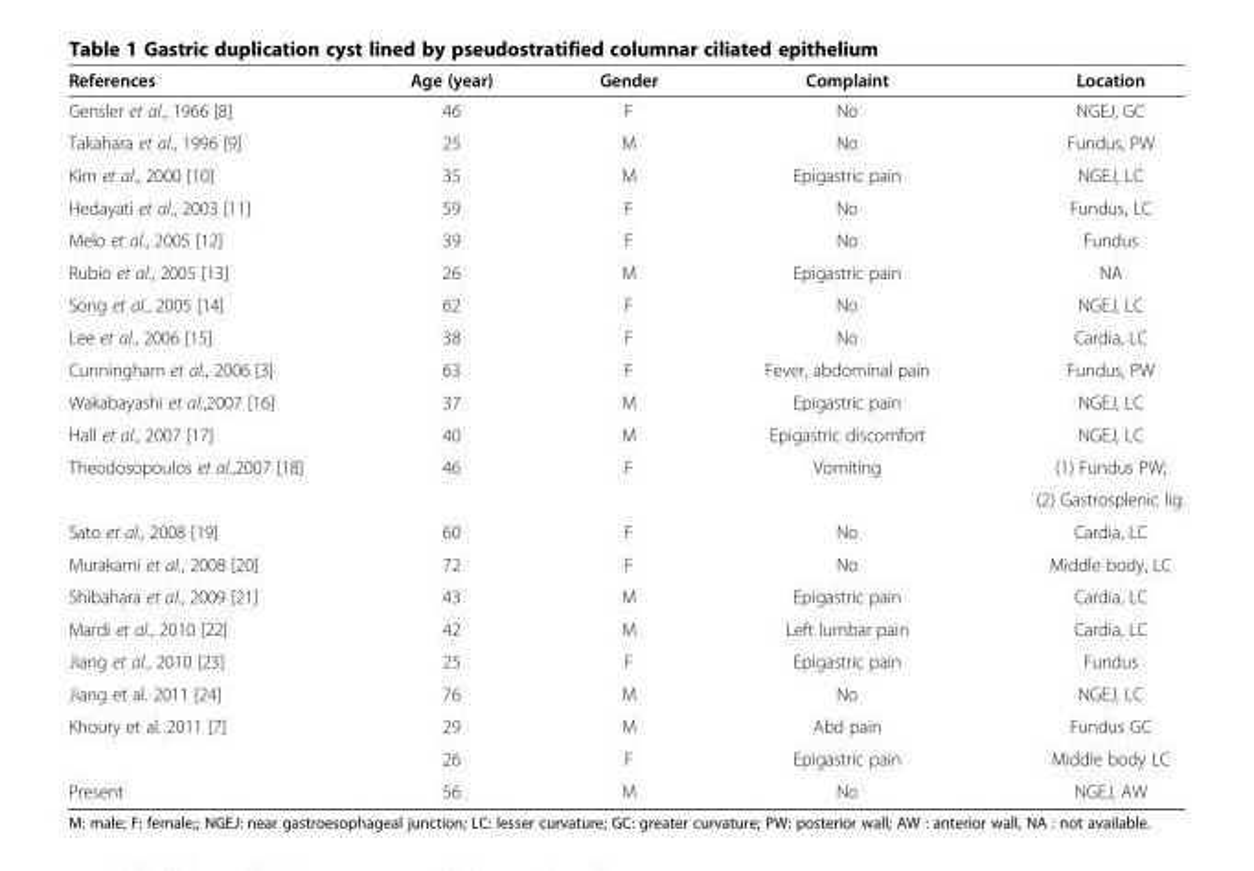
<table><thead><tr><td>References</td><td>Age (year)</td><td>Gender</td><td>Complaint</td><td>Location</td></tr></thead><tbody><tr><td>Gensler et al., 1966 [8]</td><td>46</td><td>F</td><td>No</td><td>NGEJ, GC</td></tr><tr><td>Takahara et al., 1996 [9]</td><td>25</td><td>M</td><td>No</td><td>Fundus, PW</td></tr><tr><td>Kim et al., 2000 [10]</td><td>35</td><td>M</td><td>Epigastric pain</td><td>NGEJ, LC</td></tr><tr><td>Hedayati et al., 2003 [11]</td><td>59</td><td>F</td><td>No</td><td>Fundus, LC</td></tr><tr><td>Melo et al., 2005 [12]</td><td>39</td><td>F</td><td>No</td><td>Fundus</td></tr><tr><td>Rubio et al., 2005 [13]</td><td>26</td><td>M</td><td>Epigastric pain</td><td>NA</td></tr><tr><td>Song et al., 2005 [14]</td><td>62</td><td>F</td><td>No</td><td>NGEJ, LC</td></tr><tr><td>Lee et al., 2006 [15]</td><td>38</td><td>F</td><td>No</td><td>Cardia, LC</td></tr><tr><td>Cunningham et al., 2006 [3]</td><td>63</td><td>F</td><td>Fever, abdominal pain</td><td>Fundus, PW</td></tr><tr><td>Wakabayashi et al.,2007 [16]</td><td>37</td><td>M</td><td>Epigastric pain</td><td>NGEJ, LC</td></tr><tr><td>Hall et al., 2007 [17]</td><td>40</td><td>M</td><td>Epigastric discomfort</td><td>NGEJ, LC</td></tr><tr><td rowspan="2">Theodosopoulos et al.,2007 [18]</td><td rowspan="2">46</td><td rowspan="2">F</td><td rowspan="2">Vomiting</td><td>(1) Fundus PW;</td></tr><tr><td>(2) Gastrosplenic lig.</td></tr><tr><td>Sato et al., 2008 [19]</td><td>60</td><td>F</td><td>No</td><td>Cardia, LC</td></tr><tr><td>Murakami et al., 2008 [20]</td><td>72</td><td>F</td><td>No</td><td>Middle body, LC</td></tr><tr><td>Shibahara et al., 2009 [21]</td><td>43</td><td>M</td><td>Epigastric pain</td><td>Cardia, LC</td></tr><tr><td>Mardi et al., 2010 [22]</td><td>42</td><td>M</td><td>Left lumbar pain</td><td>Cardia, LC</td></tr><tr><td>Jiang et al., 2010 [23]</td><td>25</td><td>F</td><td>Epigastric pain</td><td>Fundus</td></tr><tr><td>Jiang et al. 2011 [24]</td><td>76</td><td>M</td><td>No</td><td>NGEJ, LC</td></tr><tr><td rowspan="2">Khoury et al. 2011 [7]</td><td>29</td><td>M</td><td>Abd pain</td><td>Fundus GC</td></tr><tr><td>26</td><td>F</td><td>Epigastric pain</td><td>Middle body LC</td></tr><tr><td>Present</td><td>56</td><td>M</td><td>No</td><td>NGEJ, AW</td></tr></tbody></table>